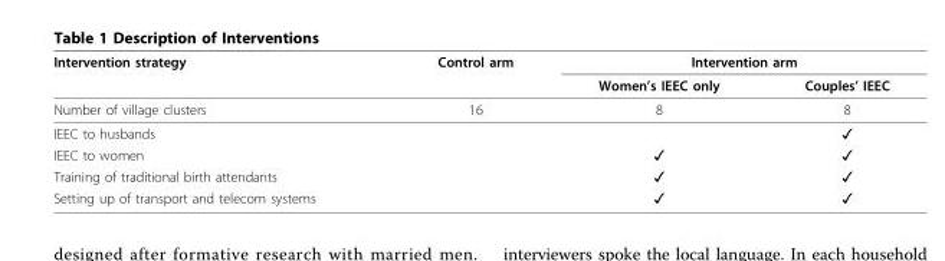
<table><thead><tr><td rowspan="2">Intervention strategy</td><td rowspan="2">Control arm</td><td colspan="2">Intervention arm</td></tr><tr><td>Women’s IEEC only</td><td>Couples’ IEEC</td></tr></thead><tbody><tr><td>Number of village clusters</td><td>16</td><td>8</td><td>8</td></tr><tr><td>IEEC to husbands</td><td></td><td></td><td>✓</td></tr><tr><td>IEEC to women</td><td></td><td>✓</td><td>✓</td></tr><tr><td>Training of traditional birth attendants</td><td></td><td>✓</td><td>✓</td></tr><tr><td>Setting up of transport and telecom systems</td><td></td><td>✓</td><td>✓</td></tr></tbody></table>